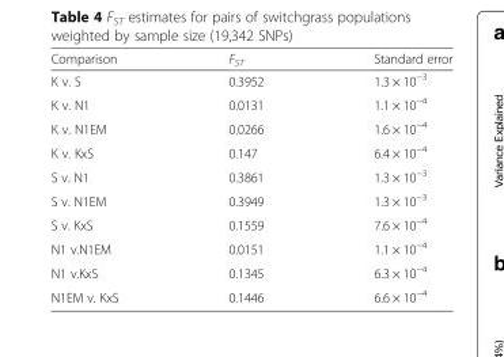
<table><thead><tr><td>Comparison</td><td>F<sub>ST</sub></td><td>Standard error</td></tr></thead><tbody><tr><td>K v. S</td><td>0.3952</td><td>1.3 × 10<sup>−3</sup></td></tr><tr><td>K v. N1</td><td>0.0131</td><td>1.1 × 10<sup>−4</sup></td></tr><tr><td>K v. N1EM</td><td>0.0266</td><td>1.6 × 10<sup>−4</sup></td></tr><tr><td>K v. KxS</td><td>0.147</td><td>6.4 × 10<sup>−4</sup></td></tr><tr><td>S v. N1</td><td>0.3861</td><td>1.3 × 10<sup>−3</sup></td></tr><tr><td>S v. N1EM</td><td>0.3949</td><td>1.3 × 10<sup>−3</sup></td></tr><tr><td>S v. KxS</td><td>0.1559</td><td>7.6 × 10<sup>−4</sup></td></tr><tr><td>N1 v.N1EM</td><td>0.0151</td><td>1.1 × 10<sup>−4</sup></td></tr><tr><td>N1 v.KxS</td><td>0.1345</td><td>6.3 × 10<sup>−4</sup></td></tr><tr><td>N1EM v. KxS</td><td>0.1446</td><td>6.6 × 10<sup>−4</sup></td></tr></tbody></table>